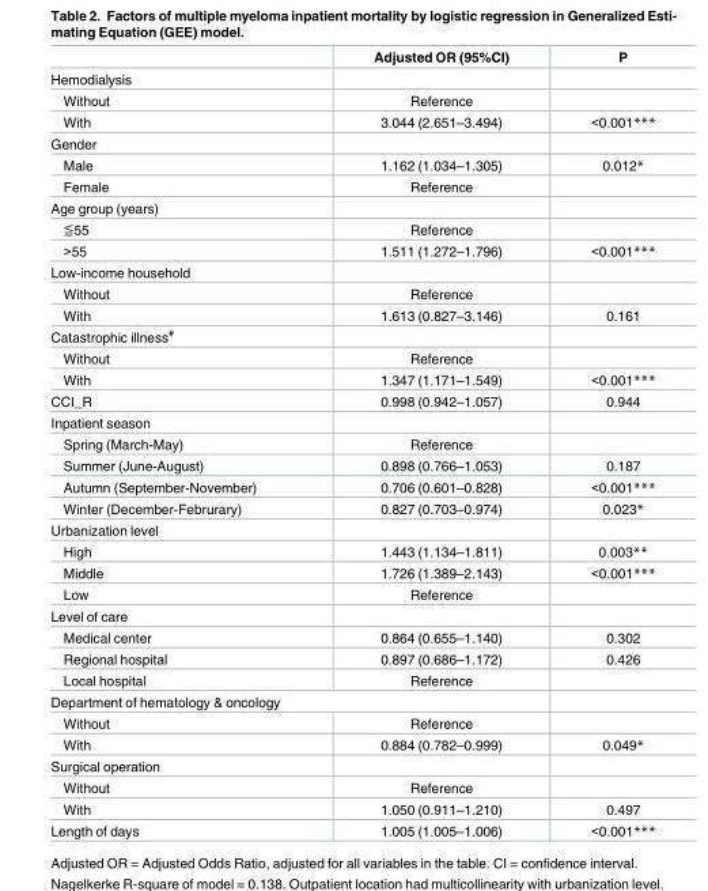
<table><thead><tr><td></td><td>Adjusted OR (95%CI)</td><td>P</td></tr></thead><tbody><tr><td colspan="3">Hemodialysis</td></tr><tr><td>Without</td><td>Reference</td><td></td></tr><tr><td>With</td><td>3.044 (2.651–3.494)</td><td>&lt;0.001***</td></tr><tr><td colspan="3">Gender</td></tr><tr><td>Male</td><td>1.162 (1.034–1.305)</td><td>0.012*</td></tr><tr><td>Female</td><td>Reference</td><td></td></tr><tr><td colspan="3">Age group (years)</td></tr><tr><td>≦55</td><td>Reference</td><td></td></tr><tr><td>&gt;55</td><td>1.511 (1.272–1.796)</td><td>&lt;0.001***</td></tr><tr><td colspan="3">Low-income household</td></tr><tr><td>Without</td><td>Reference</td><td></td></tr><tr><td>With</td><td>1.613 (0.827–3.146)</td><td>0.161</td></tr><tr><td colspan="3">Catastrophic illness<sup>#</sup></td></tr><tr><td>Without</td><td>Reference</td><td></td></tr><tr><td>With</td><td>1.347 (1.171–1.549)</td><td>&lt;0.001***</td></tr><tr><td>CCI_R</td><td>0.998 (0.942–1.057)</td><td>0.944</td></tr><tr><td colspan="3">Inpatient season</td></tr><tr><td>Spring (March-May)</td><td>Reference</td><td></td></tr><tr><td>Summer (June-August)</td><td>0.898 (0.766–1.053)</td><td>0.187</td></tr><tr><td>Autumn (September-November)</td><td>0.706 (0.601–0.828)</td><td>&lt;0.001***</td></tr><tr><td>Winter (December-Februrary)</td><td>0.827 (0.703–0.974)</td><td>0.023*</td></tr><tr><td colspan="3">Urbanization level</td></tr><tr><td>High</td><td>1.443 (1.134–1.811)</td><td>0.003**</td></tr><tr><td>Middle</td><td>1.726 (1.389–2.143)</td><td>&lt;0.001***</td></tr><tr><td>Low</td><td>Reference</td><td></td></tr><tr><td colspan="3">Level of care</td></tr><tr><td>Medical center</td><td>0.864 (0.655–1.140)</td><td>0.302</td></tr><tr><td>Regional hospital</td><td>0.897 (0.686–1.172)</td><td>0.426</td></tr><tr><td>Local hospital</td><td>Reference</td><td></td></tr><tr><td colspan="3">Department of hematology &amp; oncology</td></tr><tr><td>Without</td><td>Reference</td><td></td></tr><tr><td>With</td><td>0.884 (0.782–0.999)</td><td>0.049*</td></tr><tr><td colspan="3">Surgical operation</td></tr><tr><td>Without</td><td>Reference</td><td></td></tr><tr><td>With</td><td>1.050 (0.911–1.210)</td><td>0.497</td></tr><tr><td>Length of days</td><td>1.005 (1.005–1.006)</td><td>&lt;0.001***</td></tr></tbody></table>